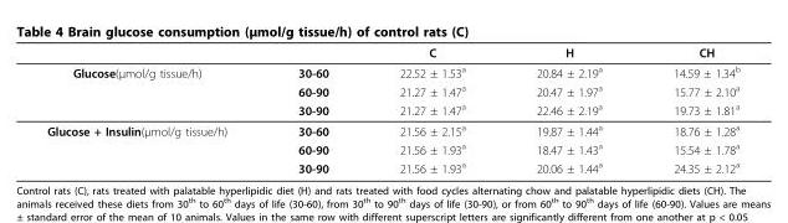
<table><thead><tr><td></td><td></td><td>C</td><td>H</td><td>CH</td></tr></thead><tbody><tr><td rowspan="3">Glucose(μmol/g tissue/h)</td><td>30-60</td><td>22.52 ± 1.53<sup>a</sup></td><td>20.84 ± 2.19<sup>a</sup></td><td>14.59 ± 1.34<sup>b</sup></td></tr><tr><td>60-90</td><td>21.27 ± 1.47<sup>a</sup></td><td>20.47 ± 1.97<sup>a</sup></td><td>15.77 ± 2.10<sup>a</sup></td></tr><tr><td>30-90</td><td>21.27 ± 1.47<sup>a</sup></td><td>22.46 ± 2.19<sup>a</sup></td><td>19.73 ± 1.81<sup>a</sup></td></tr><tr><td rowspan="3">Glucose + Insulin(μmol/g tissue/h)</td><td>30-60</td><td>21.56 ± 2.15<sup>a</sup></td><td>19.87 ± 1.44<sup>a</sup></td><td>18.76 ± 1.28<sup>a</sup></td></tr><tr><td>60-90</td><td>21.56 ± 1.93<sup>a</sup></td><td>18.47 ± 1.43<sup>a</sup></td><td>15.54 ± 1.78<sup>a</sup></td></tr><tr><td>30-90</td><td>21.56 ± 1.93<sup>a</sup></td><td>20.06 ± 1.44<sup>a</sup></td><td>24.35 ± 2.12<sup>a</sup></td></tr></tbody></table>